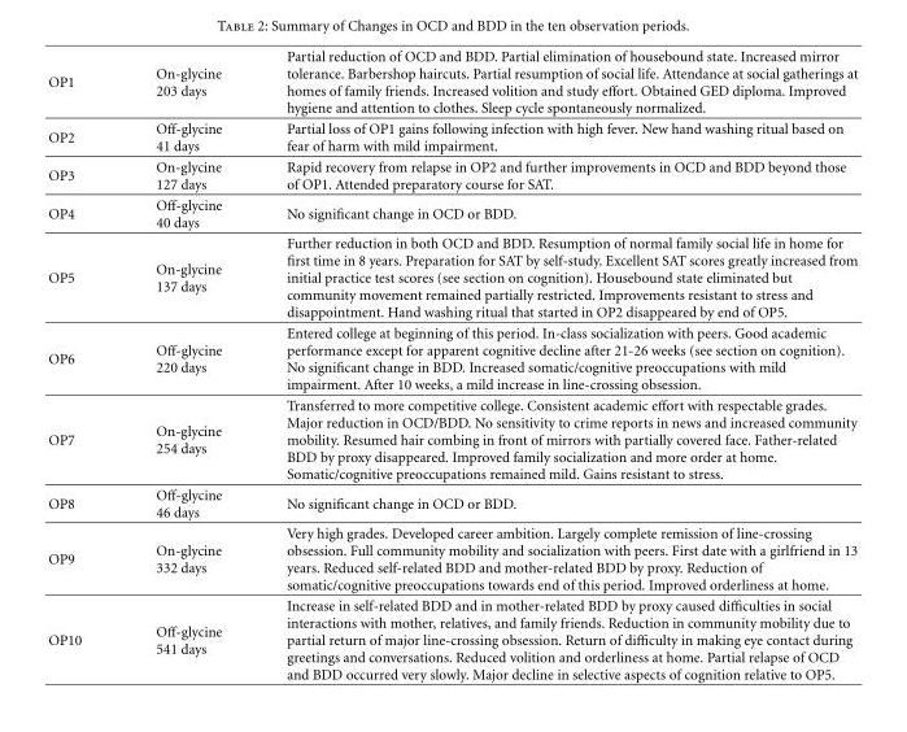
<table><tbody><tr><td>OP1</td><td>On-glycine 203 days</td><td>Partial reduction of OCD and BDD. Partial elimination of housebound state. Increased mirror tolerance. Barbershop haircuts. Partial resumption of social life. Attendance at social gatherings at homes of family friends. Increased volition and study effort. Obtained GED diploma. Improved hygiene and attention to clothes. Sleep cycle spontaneously normalized.</td></tr><tr><td>OP2</td><td>Off-glycine 41 days</td><td>Partial loss of OP1 gains following infection with high fever. New hand washing ritual based on fear of harm with mild impairment.</td></tr><tr><td>OP3</td><td>On-glycine 127 days</td><td>Rapid recovery from relapse in OP2 and further improvements in OCD and BDD beyond those of OP1. Attended preparatory course for SAT.</td></tr><tr><td>OP4</td><td>Off-glycine 40 days</td><td>No significant change in OCD or BDD.</td></tr><tr><td>OP5</td><td>On-glycine 137 days</td><td>Further reduction in both OCD and BDD. Resumption of normal family social life in home for first time in 8 years. Preparation for SAT by self-study. Excellent SAT scores greatly increased from initial practice test scores (see section on cognition). Housebound state eliminated but community movement remained partially restricted. Improvements resistant to stress and disappointment. Hand washing ritual that started in OP2 disappeared by end of OP5.</td></tr><tr><td>OP6</td><td>Off-glycine 220 days</td><td>Entered college at beginning of this period. In-class socialization with peers. Good academic performance except for apparent cognitive decline after 21-26 weeks (see section on cognition). No significant change in BDD. Increased somatic/cognitive preoccupations with mild impairment. After 10 weeks, a mild increase in line-crossing obsession.</td></tr><tr><td>OP7</td><td>On-glycine 254 days</td><td>Transferred to more competitive college. Consistent academic effort with respectable grades. Major reduction in OCD/BDD. No sensitivity to crime reports in news and increased community mobility. Resumed hair combing in front of mirrors with partially covered face. Father-related BDD by proxy disappeared. Improved family socialization and more order at home. Somatic/cognitive preoccupations remained mild. Gains resistant to stress.</td></tr><tr><td>OP8</td><td>Off-glycine 46 days</td><td>No significant change in OCD or BDD.</td></tr><tr><td>OP9</td><td>On-glycine 332 days</td><td>Very high grades. Developed career ambition. Largely complete remission of line-crossing obsession. Full community mobility and socialization with peers. First date with a girlfriend in 13 years. Reduced self-related BDD and mother-related BDD by proxy. Reduction of somatic/cognitive preoccupations towards end of this period. Improved orderliness at home.</td></tr><tr><td>OP10</td><td>Off-glycine 541 days</td><td>Increase in self-related BDD and in mother-related BDD by proxy caused difficulties in social interactions with mother, relatives, and family friends. Reduction in community mobility due to partial return of major line-crossing obsession. Return of difficulty in making eye contact during greetings and conversations. Reduced volition and orderliness at home. Partial relapse of OCD and BDD occurred very slowly. Major decline in selective aspects of cognition relative to OP5.</td></tr></tbody></table>